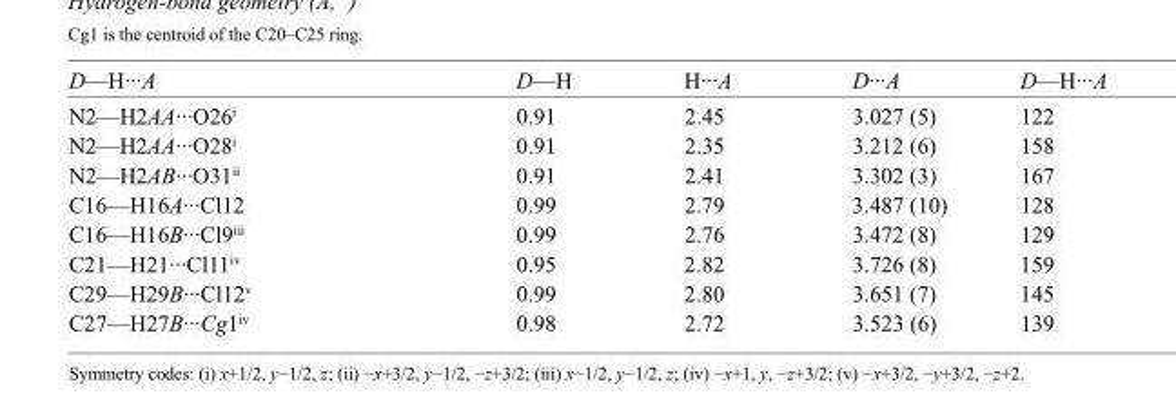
<table><tbody><tr><td>D—H···A</td><td>D—H</td><td>H···A</td><td>D···A</td><td>D—H···A</td></tr><tr><td>N2—H2AA···O26<sup>i</sup></td><td>0.91</td><td>2.45</td><td>3.027 (5)</td><td>122</td></tr><tr><td>N2—H2AA···O28<sup>i</sup></td><td>0.91</td><td>2.35</td><td>3.212 (6)</td><td>158</td></tr><tr><td>N2—H2AB···O31<sup>ii</sup></td><td>0.91</td><td>2.41</td><td>3.302 (3)</td><td>167</td></tr><tr><td>C16—H16A···Cl12</td><td>0.99</td><td>2.79</td><td>3.487 (10)</td><td>128</td></tr><tr><td>C16—H16B···Cl9<sup>iii</sup></td><td>0.99</td><td>2.76</td><td>3.472 (8)</td><td>129</td></tr><tr><td>C21—H21···Cl11<sup>iv</sup></td><td>0.95</td><td>2.82</td><td>3.726 (8)</td><td>159</td></tr><tr><td>C29—H29B···Cl12<sup>v</sup></td><td>0.99</td><td>2.80</td><td>3.651 (7)</td><td>145</td></tr><tr><td>C27—H27B···Cg1<sup>iv</sup></td><td>0.98</td><td>2.72</td><td>3.523 (6)</td><td>139</td></tr></tbody></table>